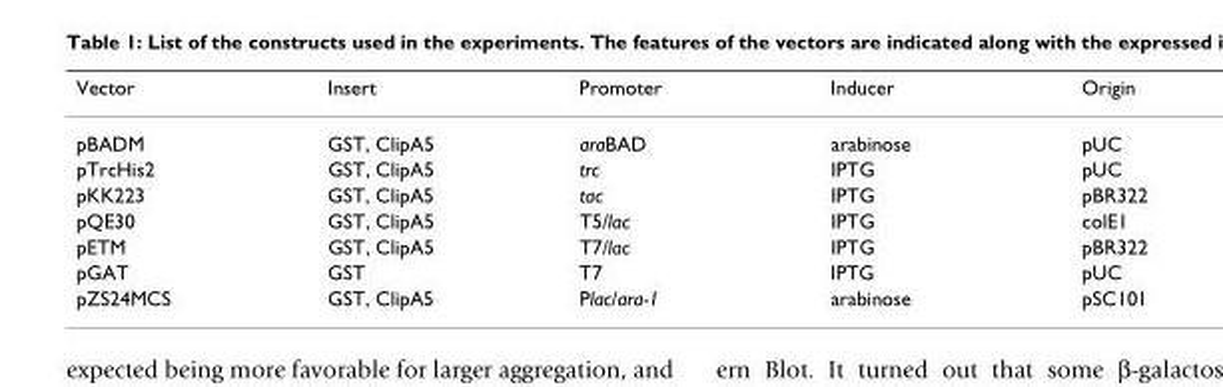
<table><thead><tr><td>Vector</td><td>Insert</td><td>Promoter</td><td>Inducer</td><td>Origin</td></tr></thead><tbody><tr><td>pBADM</td><td>GST, ClipA5</td><td>araBAD</td><td>arabinose</td><td>pUC</td></tr><tr><td>pTrcHis2</td><td>GST, ClipA5</td><td>trc</td><td>IPTG</td><td>pUC</td></tr><tr><td>pKK223</td><td>GST, ClipA5</td><td>tac</td><td>IPTG</td><td>pBR322</td></tr><tr><td>pQE30</td><td>GST, ClipA5</td><td>T5/lac</td><td>IPTG</td><td>colE1</td></tr><tr><td>pETM</td><td>GST, ClipA5</td><td>T7/lac</td><td>IPTG</td><td>pBR322</td></tr><tr><td>pGAT</td><td>GST</td><td>T7</td><td>IPTG</td><td>pUC</td></tr><tr><td>pZS24MCS</td><td>GST, ClipA5</td><td>Plac/ara-1</td><td>arabinose</td><td>pSC101</td></tr></tbody></table>